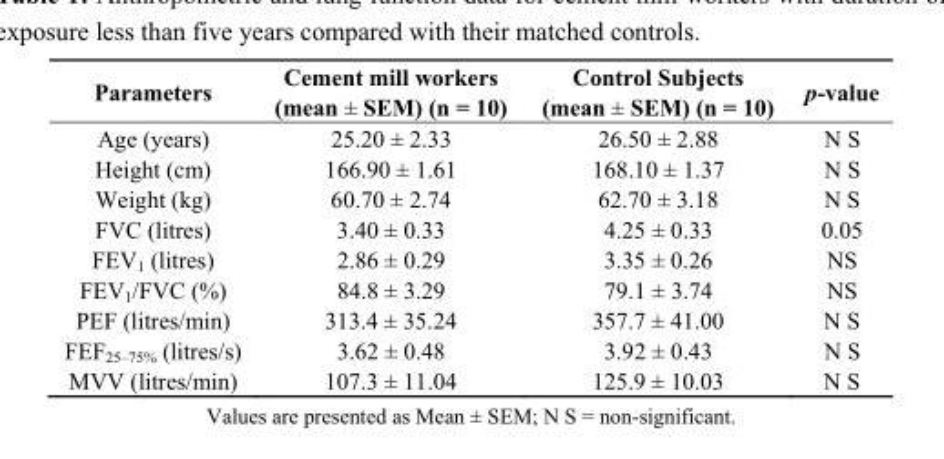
<table><thead><tr><td>Parameters</td><td>Cement mill workers (mean ± SEM) (n = 10)</td><td>Control Subjects (mean ± SEM) (n = 10)</td><td>p-value</td></tr></thead><tbody><tr><td>Age (years)</td><td>25.20 ± 2.33</td><td>26.50 ± 2.88</td><td>N S</td></tr><tr><td>Height (cm)</td><td>166.90 ± 1.61</td><td>168.10 ± 1.37</td><td>N S</td></tr><tr><td>Weight (kg)</td><td>60.70 ± 2.74</td><td>62.70 ± 3.18</td><td>N S</td></tr><tr><td>FVC (litres)</td><td>3.40 ± 0.33</td><td>4.25 ± 0.33</td><td>0.05</td></tr><tr><td>FEV<sub>1</sub> (litres)</td><td>2.86 ± 0.29</td><td>3.35 ± 0.26</td><td>NS</td></tr><tr><td>FEV<sub>1</sub>/FVC (%)</td><td>84.8 ± 3.29</td><td>79.1 ± 3.74</td><td>NS</td></tr><tr><td>PEF (litres/min)</td><td>313.4 ± 35.24</td><td>357.7 ± 41.00</td><td>N S</td></tr><tr><td>FEF<sub>25–75%</sub> (litres/s)</td><td>3.62 ± 0.48</td><td>3.92 ± 0.43</td><td>N S</td></tr><tr><td>MVV (litres/min)</td><td>107.3 ± 11.04</td><td>125.9 ± 10.03</td><td>N S</td></tr></tbody></table>